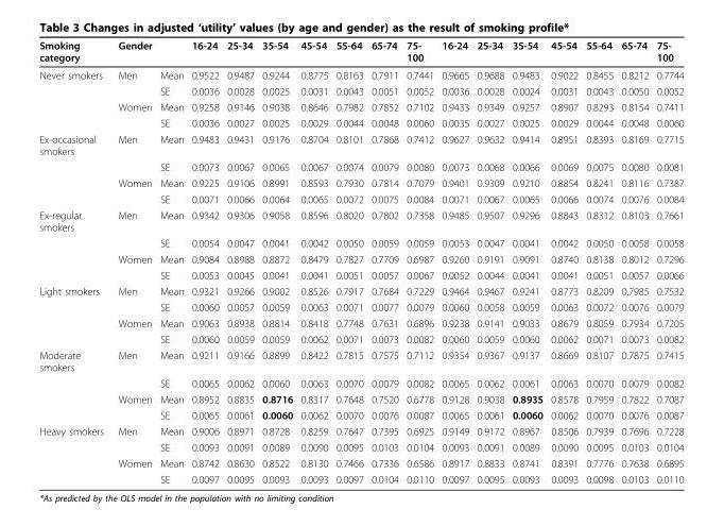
<table><thead><tr><td>Smoking category</td><td>Gender</td><td></td><td>16-24</td><td>25-34</td><td>35-54</td><td>45-54</td><td>55-64</td><td>65-74</td><td>75- 100</td><td>16-24</td><td>25-34</td><td>35-54</td><td>45-54</td><td>55-64</td><td>65-74</td><td>75- 100</td></tr></thead><tbody><tr><td rowspan="4">Never smokers</td><td>Men</td><td>Mean</td><td>0.9522</td><td>0.9487</td><td>0.9244</td><td>0.8775</td><td>0.8163</td><td>0.7911</td><td>0.7441</td><td>0.9665</td><td>0.9688</td><td>0.9483</td><td>0.9022</td><td>0.8455</td><td>0.8212</td><td>0.7744</td></tr><tr><td></td><td>SE</td><td>0.0036</td><td>0.0028</td><td>0.0025</td><td>0.0031</td><td>0.0043</td><td>0.0051</td><td>0.0052</td><td>0.0036</td><td>0.0028</td><td>0.0024</td><td>0.0031</td><td>0.0043</td><td>0.0050</td><td>0.0052</td></tr><tr><td>Women</td><td>Mean</td><td>0.9258</td><td>0.9146</td><td>0.9038</td><td>0.8646</td><td>0.7982</td><td>0.7852</td><td>0.7102</td><td>0.9433</td><td>0.9349</td><td>0.9257</td><td>0.8907</td><td>0.8293</td><td>0.8154</td><td>0.7411</td></tr><tr><td></td><td>SE</td><td>0.0036</td><td>0.0027</td><td>0.0025</td><td>0.0029</td><td>0.0044</td><td>0.0048</td><td>0.0060</td><td>0.0035</td><td>0.0027</td><td>0.0025</td><td>0.0029</td><td>0.0044</td><td>0.0048</td><td>0.0060</td></tr><tr><td rowspan="4">Ex-occasional smokers</td><td>Men</td><td>Mean</td><td>0.9483</td><td>0.9431</td><td>0.9176</td><td>0.8704</td><td>0.8101</td><td>0.7868</td><td>0.7412</td><td>0.9627</td><td>0.9632</td><td>0.9414</td><td>0.8951</td><td>0.8393</td><td>0.8169</td><td>0.7715</td></tr><tr><td></td><td>SE</td><td>0.0073</td><td>0.0067</td><td>0.0065</td><td>0.0067</td><td>0.0074</td><td>0.0079</td><td>0.0080</td><td>0.0073</td><td>0.0068</td><td>0.0066</td><td>0.0069</td><td>0.0075</td><td>0.0080</td><td>0.0081</td></tr><tr><td>Women</td><td>Mean</td><td>0.9225</td><td>0.9106</td><td>0.8991</td><td>0.8593</td><td>0.7930</td><td>0.7814</td><td>0.7079</td><td>0.9401</td><td>0.9309</td><td>0.9210</td><td>0.8854</td><td>0.8241</td><td>0.8116</td><td>0.7387</td></tr><tr><td></td><td>SE</td><td>0.0071</td><td>0.0066</td><td>0.0064</td><td>0.0065</td><td>0.0072</td><td>0.0075</td><td>0.0084</td><td>0.0071</td><td>0.0067</td><td>0.0065</td><td>0.0066</td><td>0.0074</td><td>0.0076</td><td>0.0084</td></tr><tr><td rowspan="4">Ex-regular smokers</td><td>Men</td><td>Mean</td><td>0.9342</td><td>0.9306</td><td>0.9058</td><td>0.8596</td><td>0.8020</td><td>0.7802</td><td>0.7358</td><td>0.9485</td><td>0.9507</td><td>0.9296</td><td>0.8843</td><td>0.8312</td><td>0.8103</td><td>0.7661</td></tr><tr><td></td><td>SE</td><td>0.0054</td><td>0.0047</td><td>0.0041</td><td>0.0042</td><td>0.0050</td><td>0.0059</td><td>0.0059</td><td>0.0053</td><td>0.0047</td><td>0.0041</td><td>0.0042</td><td>0.0050</td><td>0.0058</td><td>0.0058</td></tr><tr><td>Women</td><td>Mean</td><td>0.9084</td><td>0.8988</td><td>0.8872</td><td>0.8479</td><td>0.7827</td><td>0.7709</td><td>0.6987</td><td>0.9260</td><td>0.9191</td><td>0.9091</td><td>0.8740</td><td>0.8138</td><td>0.8012</td><td>0.7296</td></tr><tr><td></td><td>SE</td><td>0.0053</td><td>0.0045</td><td>0.0041</td><td>0.0041</td><td>0.0051</td><td>0.0057</td><td>0.0067</td><td>0.0052</td><td>0.0044</td><td>0.0041</td><td>0.0041</td><td>0.0051</td><td>0.0057</td><td>0.0066</td></tr><tr><td rowspan="4">Light smokers</td><td>Men</td><td>Mean</td><td>0.9321</td><td>0.9266</td><td>0.9002</td><td>0.8526</td><td>0.7917</td><td>0.7684</td><td>0.7229</td><td>0.9464</td><td>0.9467</td><td>0.9241</td><td>0.8773</td><td>0.8209</td><td>0.7985</td><td>0.7532</td></tr><tr><td></td><td>SE</td><td>0.0060</td><td>0.0057</td><td>0.0059</td><td>0.0063</td><td>0.0071</td><td>0.0077</td><td>0.0079</td><td>0.0060</td><td>0.0058</td><td>0.0059</td><td>0.0063</td><td>0.0072</td><td>0.0076</td><td>0.0079</td></tr><tr><td>Women</td><td>Mean</td><td>0.9063</td><td>0.8938</td><td>0.8814</td><td>0.8418</td><td>0.7748</td><td>0.7631</td><td>0.6896</td><td>0.9238</td><td>0.9141</td><td>0.9033</td><td>0.8679</td><td>0.8059</td><td>0.7934</td><td>0.7205</td></tr><tr><td></td><td>SE</td><td>0.0060</td><td>0.0059</td><td>0.0059</td><td>0.0062</td><td>0.0071</td><td>0.0073</td><td>0.0082</td><td>0.0060</td><td>0.0059</td><td>0.0060</td><td>0.0062</td><td>0.0071</td><td>0.0073</td><td>0.0082</td></tr><tr><td rowspan="4">Moderate smokers</td><td>Men</td><td>Mean</td><td>0.9211</td><td>0.9166</td><td>0.8899</td><td>0.8422</td><td>0.7815</td><td>0.7575</td><td>0.7112</td><td>0.9354</td><td>0.9367</td><td>0.9137</td><td>0.8669</td><td>0.8107</td><td>0.7875</td><td>0.7415</td></tr><tr><td></td><td>SE</td><td>0.0065</td><td>0.0062</td><td>0.0060</td><td>0.0063</td><td>0.0070</td><td>0.0079</td><td>0.0082</td><td>0.0065</td><td>0.0062</td><td>0.0061</td><td>0.0063</td><td>0.0070</td><td>0.0079</td><td>0.0082</td></tr><tr><td>Women</td><td>Mean</td><td>0.8952</td><td>0.8835</td><td>0.8716</td><td>0.8317</td><td>0.7648</td><td>0.7520</td><td>0.6778</td><td>0.9128</td><td>0.9038</td><td>0.8935</td><td>0.8578</td><td>0.7959</td><td>0.7822</td><td>0.7087</td></tr><tr><td></td><td>SE</td><td>0.0065</td><td>0.0061</td><td>0.0060</td><td>0.0062</td><td>0.0070</td><td>0.0076</td><td>0.0087</td><td>0.0065</td><td>0.0061</td><td>0.0060</td><td>0.0062</td><td>0.0070</td><td>0.0076</td><td>0.0087</td></tr><tr><td rowspan="4">Heavy smokers</td><td>Men</td><td>Mean</td><td>0.9006</td><td>0.8971</td><td>0.8728</td><td>0.8259</td><td>0.7647</td><td>0.7395</td><td>0.6925</td><td>0.9149</td><td>0.9172</td><td>0.8967</td><td>0.8506</td><td>0.7939</td><td>0.7696</td><td>0.7228</td></tr><tr><td></td><td>SE</td><td>0.0093</td><td>0.0091</td><td>0.0089</td><td>0.0090</td><td>0.0095</td><td>0.0103</td><td>0.0104</td><td>0.0093</td><td>0.0091</td><td>0.0089</td><td>0.0090</td><td>0.0095</td><td>0.0103</td><td>0.0104</td></tr><tr><td>Women</td><td>Mean</td><td>0.8742</td><td>0.8630</td><td>0.8522</td><td>0.8130</td><td>0.7466</td><td>0.7336</td><td>0.6586</td><td>0.8917</td><td>0.8833</td><td>0.8741</td><td>0.8391</td><td>0.7776</td><td>0.7638</td><td>0.6895</td></tr><tr><td></td><td>SE</td><td>0.0097</td><td>0.0095</td><td>0.0093</td><td>0.0093</td><td>0.0097</td><td>0.0104</td><td>0.0110</td><td>0.0097</td><td>0.0095</td><td>0.0093</td><td>0.0093</td><td>0.0098</td><td>0.0103</td><td>0.0110</td></tr></tbody></table>